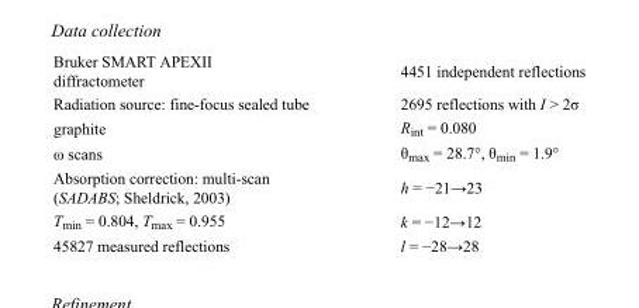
<table><tbody><tr><td>Bruker SMART APEXII diffractometer</td><td>4451 independent reflections</td></tr><tr><td>Radiation source: fine-focus sealed tube</td><td>2695 reflections with I &gt; 2σ</td></tr><tr><td>graphite</td><td>R<sub>int</sub> = 0.080</td></tr><tr><td>ω scans</td><td>θ<sub>max</sub> = 28.7°, θ<sub>min</sub> = 1.9°</td></tr><tr><td>Absorption correction: multi-scan (SADABS; Sheldrick, 2003)</td><td>h = −21→23</td></tr><tr><td>T<sub>min</sub> = 0.804, T<sub>max</sub> = 0.955</td><td>k = −12→12</td></tr><tr><td>45827 measured reflections</td><td>l = −28→28</td></tr></tbody></table>